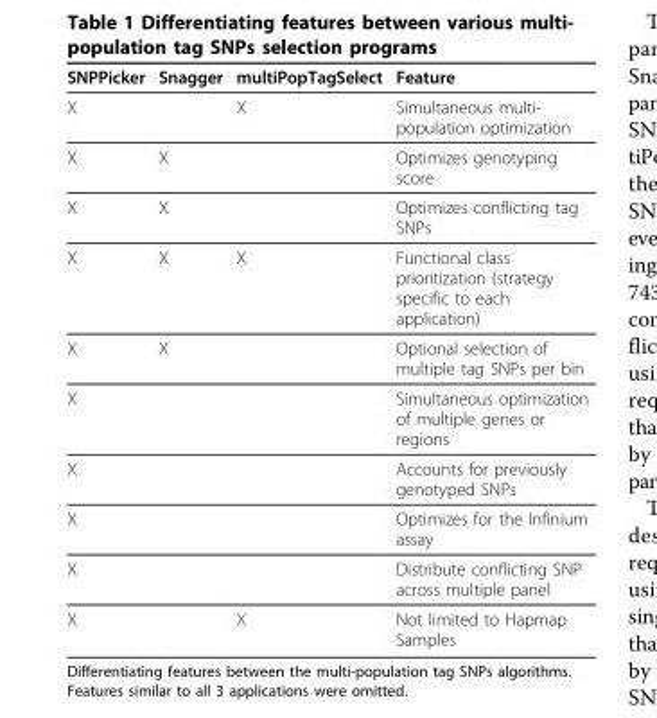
<table><thead><tr><td>SNPPicker</td><td>Snagger</td><td>multiPopTagSelect</td><td>Feature</td></tr></thead><tbody><tr><td>X</td><td></td><td>X</td><td>Simultaneous multi- population optimization</td></tr><tr><td>X</td><td>X</td><td></td><td>Optimizes genotyping score</td></tr><tr><td>X</td><td>X</td><td></td><td>Optimizes conflicting tag SNPs</td></tr><tr><td>X</td><td>X</td><td>X</td><td>Functional class prioritization (strategy specific to each application)</td></tr><tr><td>X</td><td>X</td><td></td><td>Optional selection of multiple tag SNPs per bin</td></tr><tr><td>X</td><td></td><td></td><td>Simultaneous optimization of multiple genes or regions</td></tr><tr><td>X</td><td></td><td></td><td>Accounts for previously genotyped SNPs</td></tr><tr><td>X</td><td></td><td></td><td>Optimizes for the Infinium assay</td></tr><tr><td>X</td><td></td><td></td><td>Distribute conflicting SNP across multiple panel</td></tr><tr><td>X</td><td></td><td>X</td><td>Not limited to Hapmap Samples</td></tr></tbody></table>